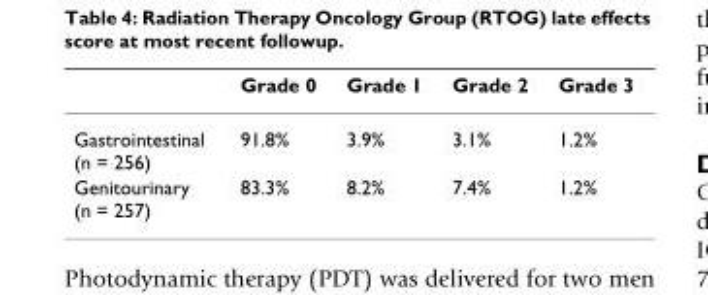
<table><thead><tr><td></td><td>Grade 0</td><td>Grade 1</td><td>Grade 2</td><td>Grade 3</td></tr></thead><tbody><tr><td>Gastrointestinal (n = 256)</td><td>91.8%</td><td>3.9%</td><td>3.1%</td><td>1.2%</td></tr><tr><td>Genitourinary (n = 257)</td><td>83.3%</td><td>8.2%</td><td>7.4%</td><td>1.2%</td></tr></tbody></table>